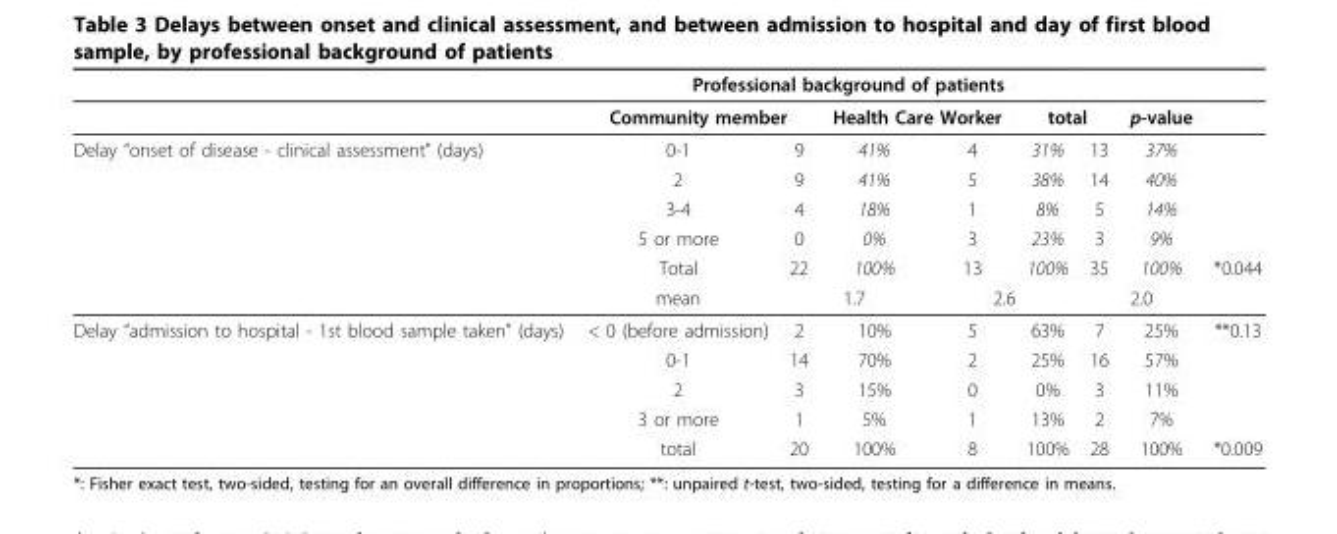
<table><thead><tr><td rowspan="3">Delay “onset of disease - clinical assessment” (days)</td><td colspan="6">Professional background of patients</td><td rowspan="3">p-value 37%</td><td rowspan="3"></td></tr><tr><td colspan="2">Community member</td><td colspan="2">Health Care Worker</td><td colspan="2">total</td></tr><tr><td>0-1</td><td>9</td><td>41%</td><td>4</td><td>31%</td><td>13</td></tr></thead><tbody><tr><td></td><td>2</td><td>9</td><td>41%</td><td>5</td><td>38%</td><td>14</td><td>40%</td><td></td></tr><tr><td></td><td>3-4</td><td>4</td><td>18%</td><td>1</td><td>8%</td><td>5</td><td>14%</td><td></td></tr><tr><td></td><td>5 or more</td><td>0</td><td>0%</td><td>3</td><td>23%</td><td>3</td><td>9%</td><td></td></tr><tr><td></td><td>Total</td><td>22</td><td>100%</td><td>13</td><td>100%</td><td>35</td><td>100%</td><td>*0.044</td></tr><tr><td></td><td>mean</td><td colspan="2">1.7</td><td colspan="2">2.6</td><td colspan="2">2.0</td><td></td></tr><tr><td rowspan="5">Delay “admission to hospital - 1st blood sample taken” (days)</td><td>&lt; 0 (before admission)</td><td>2</td><td>10%</td><td>5</td><td>63%</td><td>7</td><td>25%</td><td>**0.13</td></tr><tr><td>0-1</td><td>14</td><td>70%</td><td>2</td><td>25%</td><td>16</td><td>57%</td><td></td></tr><tr><td>2</td><td>3</td><td>15%</td><td>0</td><td>0%</td><td>3</td><td>11%</td><td></td></tr><tr><td>3 or more</td><td>1</td><td>5%</td><td>1</td><td>13%</td><td>2</td><td>7%</td><td></td></tr><tr><td>total</td><td>20</td><td>100%</td><td>8</td><td>100%</td><td>28</td><td>100%</td><td>*0.009</td></tr></tbody></table>